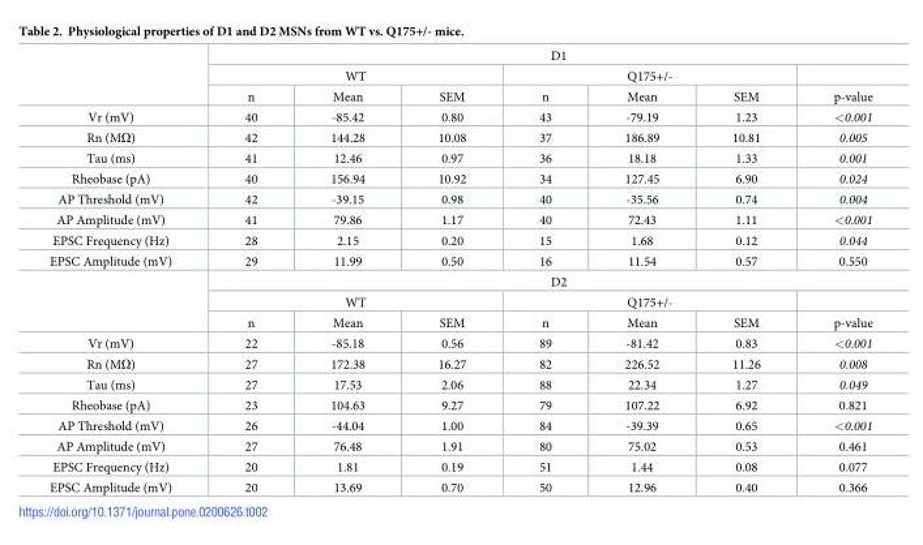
<table><thead><tr><td rowspan="3"></td><td colspan="7">D1</td></tr><tr><td colspan="3">WT</td><td colspan="3">Q175+/-</td><td rowspan="2">p-value</td></tr><tr><td>n</td><td>Mean</td><td>SEM</td><td>n</td><td>Mean</td><td>SEM</td></tr></thead><tbody><tr><td>Vr (mV)</td><td>40</td><td>-85.42</td><td>0.80</td><td>43</td><td>-79.19</td><td>1.23</td><td>&lt;0.001</td></tr><tr><td>Rn (MΩ)</td><td>42</td><td>144.28</td><td>10.08</td><td>37</td><td>186.89</td><td>10.81</td><td>0.005</td></tr><tr><td>Tau (ms)</td><td>41</td><td>12.46</td><td>0.97</td><td>36</td><td>18.18</td><td>1.33</td><td>0.001</td></tr><tr><td>Rheobase (pA)</td><td>40</td><td>156.94</td><td>10.92</td><td>34</td><td>127.45</td><td>6.90</td><td>0.024</td></tr><tr><td>AP Threshold (mV)</td><td>42</td><td>-39.15</td><td>0.98</td><td>40</td><td>-35.56</td><td>0.74</td><td>0.004</td></tr><tr><td>AP Amplitude (mV)</td><td>41</td><td>79.86</td><td>1.17</td><td>40</td><td>72.43</td><td>1.11</td><td>&lt;0.001</td></tr><tr><td>EPSC Frequency (Hz)</td><td>28</td><td>2.15</td><td>0.20</td><td>15</td><td>1.68</td><td>0.12</td><td>0.044</td></tr><tr><td rowspan="4">EPSC Amplitude (mV)</td><td>29</td><td>11.99</td><td>0.50</td><td>16</td><td>11.54</td><td>0.57</td><td>0.550</td></tr><tr><td colspan="7">D2</td></tr><tr><td colspan="3">WT</td><td colspan="3">Q175+/-</td><td></td></tr><tr><td>n</td><td>Mean</td><td>SEM</td><td>n</td><td>Mean</td><td>SEM</td><td>p-value</td></tr><tr><td>Vr (mV)</td><td>22</td><td>-85.18</td><td>0.56</td><td>89</td><td>-81.42</td><td>0.83</td><td>&lt;0.001</td></tr><tr><td>Rn (MΩ)</td><td>27</td><td>172.38</td><td>16.27</td><td>82</td><td>226.52</td><td>11.26</td><td>0.008</td></tr><tr><td>Tau (ms)</td><td>27</td><td>17.53</td><td>2.06</td><td>88</td><td>22.34</td><td>1.27</td><td>0.049</td></tr><tr><td>Rheobase (pA)</td><td>23</td><td>104.63</td><td>9.27</td><td>79</td><td>107.22</td><td>6.92</td><td>0.821</td></tr><tr><td>AP Threshold (mV)</td><td>26</td><td>-44.04</td><td>1.00</td><td>84</td><td>-39.39</td><td>0.65</td><td>&lt;0.001</td></tr><tr><td>AP Amplitude (mV)</td><td>27</td><td>76.48</td><td>1.91</td><td>80</td><td>75.02</td><td>0.53</td><td>0.461</td></tr><tr><td>EPSC Frequency (Hz)</td><td>20</td><td>1.81</td><td>0.19</td><td>51</td><td>1.44</td><td>0.08</td><td>0.077</td></tr><tr><td>EPSC Amplitude (mV)</td><td>20</td><td>13.69</td><td>0.70</td><td>50</td><td>12.96</td><td>0.40</td><td>0.366</td></tr></tbody></table>